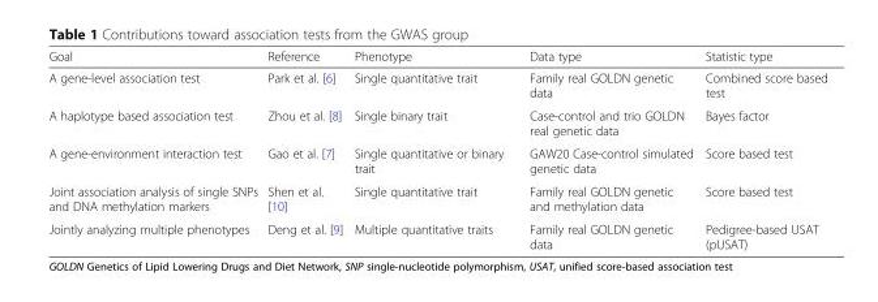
<table><thead><tr><td>Goal</td><td>Reference</td><td>Phenotype</td><td>Data type</td><td>Statistic type</td></tr></thead><tbody><tr><td>A gene-level association test</td><td>Park et al. [6]</td><td>Single quantitative trait</td><td>Family real GOLDN genetic data</td><td>Combined score based test</td></tr><tr><td>A haplotype based association test</td><td>Zhou et al. [8]</td><td>Single binary trait</td><td>Case-control and trio GOLDN real genetic data</td><td>Bayes factor</td></tr><tr><td>A gene-environment interaction test</td><td>Gao et al. [7]</td><td>Single quantitative or binary trait</td><td>GAW20 Case-control simulated genetic data</td><td>Score based test</td></tr><tr><td>Joint association analysis of single SNPs and DNA methylation markers</td><td>Shen et al. [10]</td><td>Single quantitative trait</td><td>Family real GOLDN genetic and methylation data</td><td>Score based test</td></tr><tr><td>Jointly analyzing multiple phenotypes</td><td>Deng et al. [9]</td><td>Multiple quantitative traits</td><td>Family real GOLDN genetic data</td><td>Pedigree-based USAT (pUSAT)</td></tr></tbody></table>